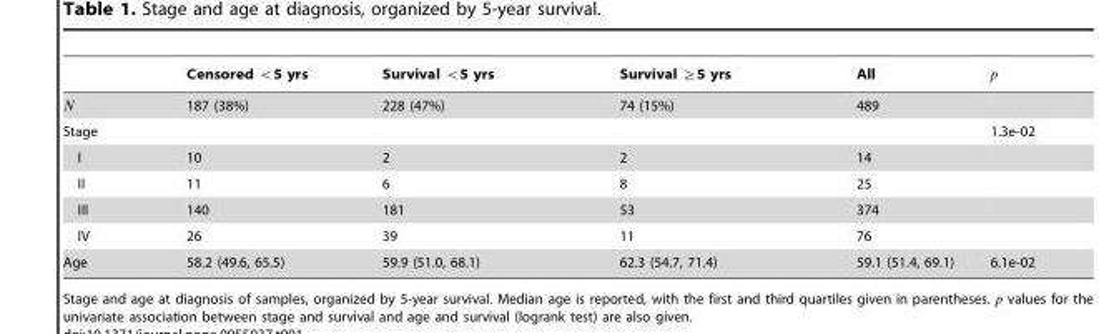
<table><thead><tr><td></td><td>Censored v5 yrs</td><td>Survival v5 yrs</td><td>Survival §5 yrs</td><td>All</td><td>p</td></tr></thead><tbody><tr><td>N</td><td>187 (38%)</td><td>228 (47%)</td><td>74 (15%)</td><td>489</td><td></td></tr><tr><td>Stage</td><td></td><td></td><td></td><td></td><td>1.3e-02</td></tr><tr><td>I</td><td>10</td><td>2</td><td>2</td><td>14</td><td></td></tr><tr><td>II</td><td>11</td><td>6</td><td>8</td><td>25</td><td></td></tr><tr><td>III</td><td>140</td><td>181</td><td>53</td><td>374</td><td></td></tr><tr><td>IV</td><td>26</td><td>39</td><td>11</td><td>76</td><td></td></tr><tr><td>Age</td><td>58.2 (49.6, 65.5)</td><td>59.9 (51.0, 68.1)</td><td>62.3 (54.7, 71.4)</td><td>59.1 (51.4, 69.1)</td><td>6.1e-02</td></tr></tbody></table>